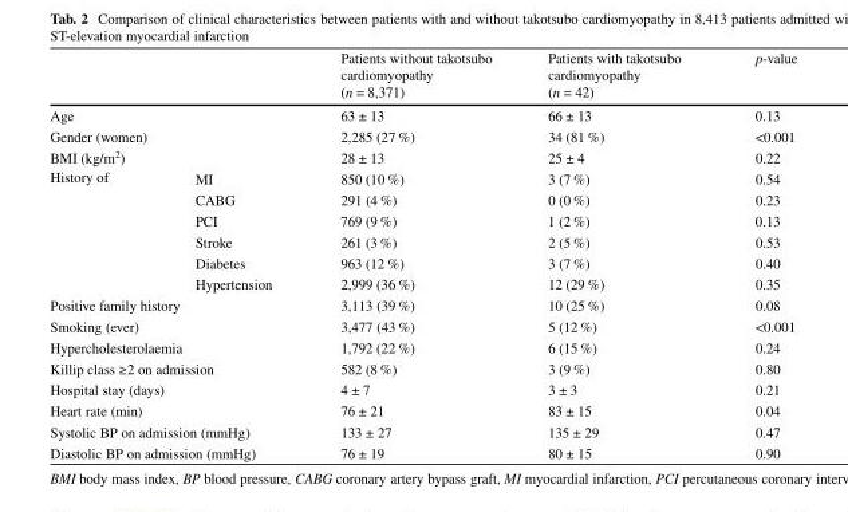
<table><thead><tr><td></td><td></td><td>Patients without takotsubo cardiomyopathy (n = 8,371)</td><td>Patients with takotsubo cardiomyopathy (n = 42)</td><td>p-value</td></tr></thead><tbody><tr><td colspan="2">Age</td><td>63 ± 13</td><td>66 ± 13</td><td>0.13</td></tr><tr><td colspan="2">Gender (women)</td><td>2,285 (27 %)</td><td>34 (81 %)</td><td>&lt;0.001</td></tr><tr><td colspan="2">BMI (kg/m<sup>2</sup>)</td><td>28 ± 13</td><td>25 ± 4</td><td>0.22</td></tr><tr><td rowspan="6">History of</td><td>MI</td><td>850 (10 %)</td><td>3 (7 %)</td><td>0.54</td></tr><tr><td>CABG</td><td>291 (4 %)</td><td>0 (0 %)</td><td>0.23</td></tr><tr><td>PCI</td><td>769 (9 %)</td><td>1 (2 %)</td><td>0.13</td></tr><tr><td>Stroke</td><td>261 (3 %)</td><td>2 (5 %)</td><td>0.53</td></tr><tr><td>Diabetes</td><td>963 (12 %)</td><td>3 (7 %)</td><td>0.40</td></tr><tr><td>Hypertension</td><td>2,999 (36 %)</td><td>12 (29 %)</td><td>0.35</td></tr><tr><td colspan="2">Positive family history</td><td>3,113 (39 %)</td><td>10 (25 %)</td><td>0.08</td></tr><tr><td colspan="2">Smoking (ever)</td><td>3,477 (43 %)</td><td>5 (12 %)</td><td>&lt;0.001</td></tr><tr><td colspan="2">Hypercholesterolaemia</td><td>1,792 (22 %)</td><td>6 (15 %)</td><td>0.24</td></tr><tr><td colspan="2">Killip class ≥2 on admission</td><td>582 (8 %)</td><td>3 (9 %)</td><td>0.80</td></tr><tr><td colspan="2">Hospital stay (days)</td><td>4 ± 7</td><td>3 ± 3</td><td>0.21</td></tr><tr><td colspan="2">Heart rate (min)</td><td>76 ± 21</td><td>83 ± 15</td><td>0.04</td></tr><tr><td colspan="2">Systolic BP on admission (mmHg)</td><td>133 ± 27</td><td>135 ± 29</td><td>0.47</td></tr><tr><td colspan="2">Diastolic BP on admission (mmHg)</td><td>76 ± 19</td><td>80 ± 15</td><td>0.90</td></tr></tbody></table>